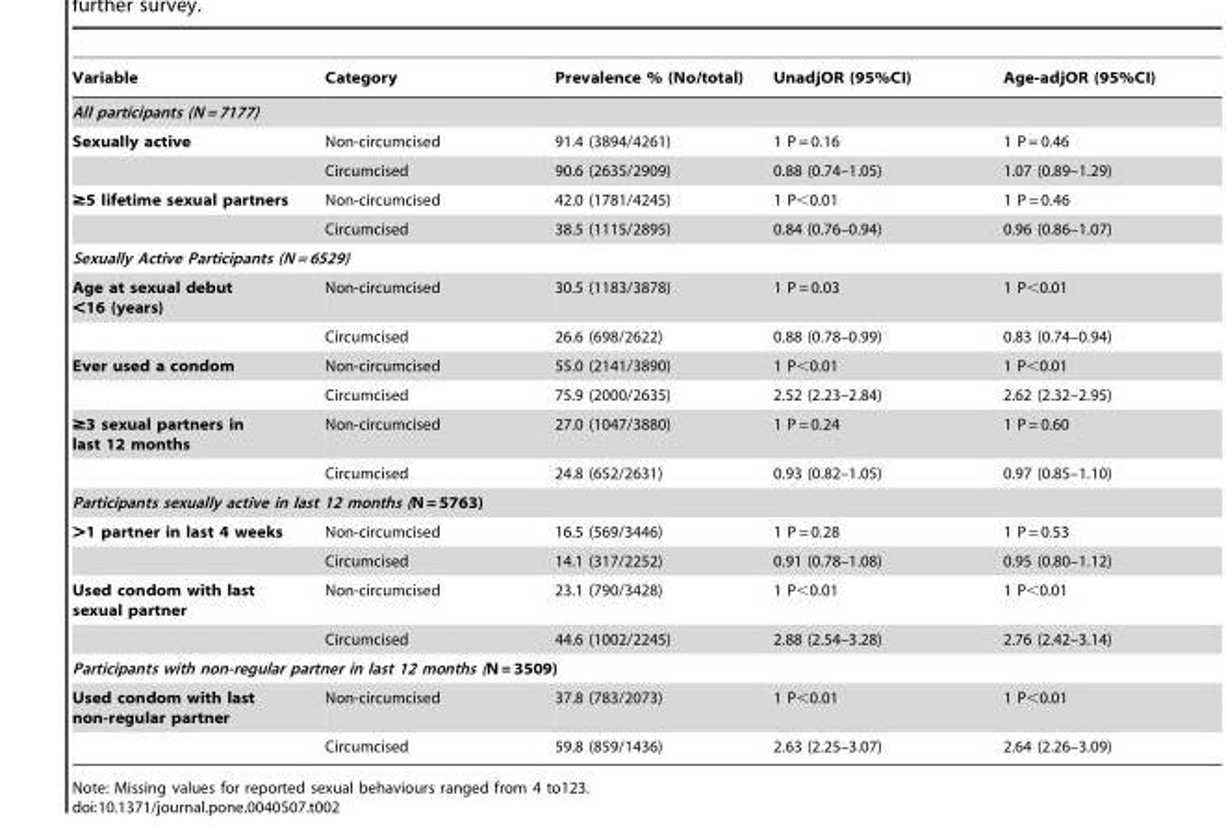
<table><thead><tr><td>Variable</td><td>Category</td><td>Prevalence % (No/total)</td><td>UnadjOR (95%CI)</td><td>Age-adjOR (95%CI)</td></tr></thead><tbody><tr><td colspan="5">All participants (N = 7177)</td></tr><tr><td rowspan="2">Sexually active</td><td>Non-circumcised</td><td>91.4 (3894/4261)</td><td>1 P = 0.16</td><td>1 P = 0.46</td></tr><tr><td>Circumcised</td><td>90.6 (2635/2909)</td><td>0.88 (0.74–1.05)</td><td>1.07 (0.89–1.29)</td></tr><tr><td rowspan="2">≥5 lifetime sexual partners</td><td>Non-circumcised</td><td>42.0 (1781/4245)</td><td>1 P&lt;0.01</td><td>1 P = 0.46</td></tr><tr><td>Circumcised</td><td>38.5 (1115/2895)</td><td>0.84 (0.76–0.94)</td><td>0.96 (0.86–1.07)</td></tr><tr><td colspan="5">Sexually Active Participants (N = 6529)</td></tr><tr><td rowspan="2">Age at sexual debut &lt;16 (years)</td><td>Non-circumcised</td><td>30.5 (1183/3878)</td><td>1 P = 0.03</td><td>1 P&lt;0.01</td></tr><tr><td>Circumcised</td><td>26.6 (698/2622)</td><td>0.88 (0.78–0.99)</td><td>0.83 (0.74–0.94)</td></tr><tr><td rowspan="2">Ever used a condom</td><td>Non-circumcised</td><td>55.0 (2141/3890)</td><td>1 P&lt;0.01</td><td>1 P&lt;0.01</td></tr><tr><td>Circumcised</td><td>75.9 (2000/2635)</td><td>2.52 (2.23–2.84)</td><td>2.62 (2.32–2.95)</td></tr><tr><td rowspan="2">≥3 sexual partners in last 12 months</td><td>Non-circumcised</td><td>27.0 (1047/3880)</td><td>1 P = 0.24</td><td>1 P = 0.60</td></tr><tr><td>Circumcised</td><td>24.8 (652/2631)</td><td>0.93 (0.82–1.05)</td><td>0.97 (0.85–1.10)</td></tr><tr><td colspan="5">Participants sexually active in last 12 months (N = 5763)</td></tr><tr><td rowspan="2">&gt;1 partner in last 4 weeks</td><td>Non-circumcised</td><td>16.5 (569/3446)</td><td>1 P = 0.28</td><td>1 P = 0.53</td></tr><tr><td>Circumcised</td><td>14.1 (317/2252)</td><td>0.91 (0.78–1.08)</td><td>0.95 (0.80–1.12)</td></tr><tr><td rowspan="2">Used condom with last sexual partner</td><td>Non-circumcised</td><td>23.1 (790/3428)</td><td>1 P&lt;0.01</td><td>1 P&lt;0.01</td></tr><tr><td>Circumcised</td><td>44.6 (1002/2245)</td><td>2.88 (2.54–3.28)</td><td>2.76 (2.42–3.14)</td></tr><tr><td colspan="5">Participants with non-regular partner in last 12 months (N = 3509)</td></tr><tr><td rowspan="2">Used condom with last non-regular partner</td><td>Non-circumcised</td><td>37.8 (783/2073)</td><td>1 P&lt;0.01</td><td>1 P&lt;0.01</td></tr><tr><td>Circumcised</td><td>59.8 (859/1436)</td><td>2.63 (2.25–3.07)</td><td>2.64 (2.26–3.09)</td></tr></tbody></table>